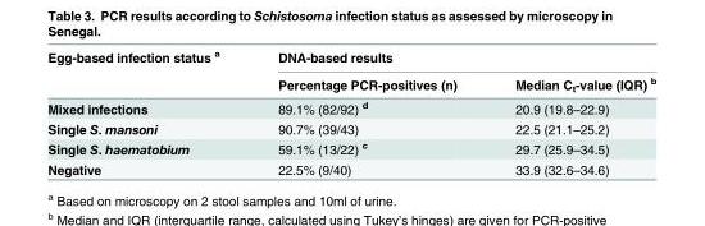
<table><thead><tr><td rowspan="2">Egg-based infection status <sup>a</sup></td><td colspan="2">DNA-based results</td></tr><tr><td>Percentage PCR-positives (n)</td><td>Median C<sub>t</sub>-value (IQR) <sup>b</sup></td></tr></thead><tbody><tr><td>Mixed infections</td><td>89.1% (82/92) <sup>d</sup></td><td>20.9 (19.8–22.9)</td></tr><tr><td>Single S. mansoni</td><td>90.7% (39/43)</td><td>22.5 (21.1–25.2)</td></tr><tr><td>Single S. haematobium</td><td>59.1% (13/22) <sup>c</sup></td><td>29.7 (25.9–34.5)</td></tr><tr><td>Negative</td><td>22.5% (9/40)</td><td>33.9 (32.6–34.6)</td></tr></tbody></table>